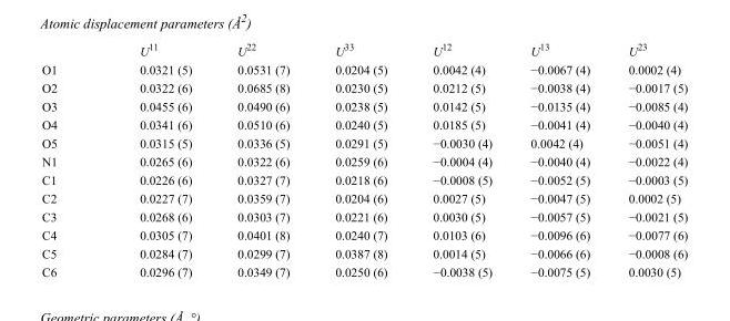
<table><thead><tr><td></td><td>U<sup>11</sup></td><td>U<sup>22</sup></td><td>U<sup>33</sup></td><td>U<sup>12</sup></td><td>U<sup>13</sup></td><td>U<sup>23</sup></td></tr></thead><tbody><tr><td>O1</td><td>0.0321 (5)</td><td>0.0531 (7)</td><td>0.0204 (5)</td><td>0.0042 (4)</td><td>−0.0067 (4)</td><td>0.0002 (4)</td></tr><tr><td>O2</td><td>0.0322 (6)</td><td>0.0685 (8)</td><td>0.0230 (5)</td><td>0.0212 (5)</td><td>−0.0038 (4)</td><td>−0.0017 (5)</td></tr><tr><td>O3</td><td>0.0455 (6)</td><td>0.0490 (6)</td><td>0.0238 (5)</td><td>0.0142 (5)</td><td>−0.0135 (4)</td><td>−0.0085 (4)</td></tr><tr><td>O4</td><td>0.0341 (6)</td><td>0.0510 (6)</td><td>0.0240 (5)</td><td>0.0185 (5)</td><td>−0.0041 (4)</td><td>−0.0040 (4)</td></tr><tr><td>O5</td><td>0.0315 (5)</td><td>0.0336 (5)</td><td>0.0291 (5)</td><td>−0.0030 (4)</td><td>0.0042 (4)</td><td>−0.0051 (4)</td></tr><tr><td>N1</td><td>0.0265 (6)</td><td>0.0322 (6)</td><td>0.0259 (6)</td><td>−0.0004 (4)</td><td>−0.0040 (4)</td><td>−0.0022 (4)</td></tr><tr><td>C1</td><td>0.0226 (6)</td><td>0.0327 (7)</td><td>0.0218 (6)</td><td>−0.0008 (5)</td><td>−0.0052 (5)</td><td>−0.0003 (5)</td></tr><tr><td>C2</td><td>0.0227 (7)</td><td>0.0359 (7)</td><td>0.0204 (6)</td><td>0.0027 (5)</td><td>−0.0047 (5)</td><td>0.0002 (5)</td></tr><tr><td>C3</td><td>0.0268 (6)</td><td>0.0303 (7)</td><td>0.0221 (6)</td><td>0.0030 (5)</td><td>−0.0057 (5)</td><td>−0.0021 (5)</td></tr><tr><td>C4</td><td>0.0305 (7)</td><td>0.0401 (8)</td><td>0.0240 (7)</td><td>0.0103 (6)</td><td>−0.0096 (6)</td><td>−0.0077 (6)</td></tr><tr><td>C5</td><td>0.0284 (7)</td><td>0.0299 (7)</td><td>0.0387 (8)</td><td>0.0014 (5)</td><td>−0.0066 (6)</td><td>−0.0008 (6)</td></tr><tr><td>C6</td><td>0.0296 (7)</td><td>0.0349 (7)</td><td>0.0250 (6)</td><td>−0.0038 (5)</td><td>−0.0075 (5)</td><td>0.0030 (5)</td></tr></tbody></table>